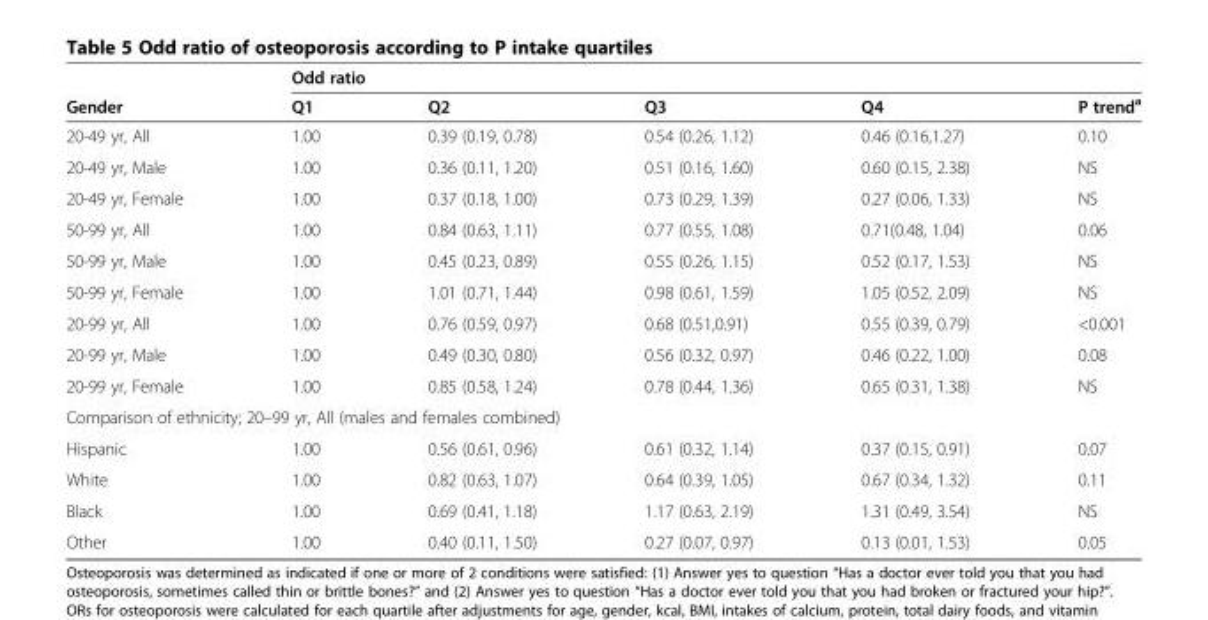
<table><thead><tr><td rowspan="2">Gender</td><td colspan="5">Odd ratio</td></tr><tr><td>Q1</td><td>Q2</td><td>Q3</td><td>Q4</td><td>P trend<sup>a</sup></td></tr></thead><tbody><tr><td>20-49 yr, All</td><td>1.00</td><td>0.39 (0.19, 0.78)</td><td>0.54 (0.26, 1.12)</td><td>0.46 (0.16,1.27)</td><td>0.10</td></tr><tr><td>20-49 yr, Male</td><td>1.00</td><td>0.36 (0.11, 1.20)</td><td>0.51 (0.16, 1.60)</td><td>0.60 (0.15, 2.38)</td><td>NS</td></tr><tr><td>20-49 yr, Female</td><td>1.00</td><td>0.37 (0.18, 1.00)</td><td>0.73 (0.29, 1.39)</td><td>0.27 (0.06, 1.33)</td><td>NS</td></tr><tr><td>50-99 yr, All</td><td>1.00</td><td>0.84 (0.63, 1.11)</td><td>0.77 (0.55, 1.08)</td><td>0.71(0.48, 1.04)</td><td>0.06</td></tr><tr><td>50-99 yr, Male</td><td>1.00</td><td>0.45 (0.23, 0.89)</td><td>0.55 (0.26, 1.15)</td><td>0.52 (0.17, 1.53)</td><td>NS</td></tr><tr><td>50-99 yr, Female</td><td>1.00</td><td>1.01 (0.71, 1.44)</td><td>0.98 (0.61, 1.59)</td><td>1.05 (0.52, 2.09)</td><td>NS</td></tr><tr><td>20-99 yr, All</td><td>1.00</td><td>0.76 (0.59, 0.97)</td><td>0.68 (0.51,0.91)</td><td>0.55 (0.39, 0.79)</td><td>&lt;0.001</td></tr><tr><td>20-99 yr, Male</td><td>1.00</td><td>0.49 (0.30, 0.80)</td><td>0.56 (0.32, 0.97)</td><td>0.46 (0.22, 1.00)</td><td>0.08</td></tr><tr><td>20-99 yr, Female</td><td>1.00</td><td>0.85 (0.58, 1.24)</td><td>0.78 (0.44, 1.36)</td><td>0.65 (0.31, 1.38)</td><td>NS</td></tr><tr><td colspan="6">Comparison of ethnicity; 20–99 yr, All (males and females combined)</td></tr><tr><td>Hispanic</td><td>1.00</td><td>0.56 (0.61, 0.96)</td><td>0.61 (0.32, 1.14)</td><td>0.37 (0.15, 0.91)</td><td>0.07</td></tr><tr><td>White</td><td>1.00</td><td>0.82 (0.63, 1.07)</td><td>0.64 (0.39, 1.05)</td><td>0.67 (0.34, 1.32)</td><td>0.11</td></tr><tr><td>Black</td><td>1.00</td><td>0.69 (0.41, 1.18)</td><td>1.17 (0.63, 2.19)</td><td>1.31 (0.49, 3.54)</td><td>NS</td></tr><tr><td>Other</td><td>1.00</td><td>0.40 (0.11, 1.50)</td><td>0.27 (0.07, 0.97)</td><td>0.13 (0.01, 1.53)</td><td>0.05</td></tr></tbody></table>